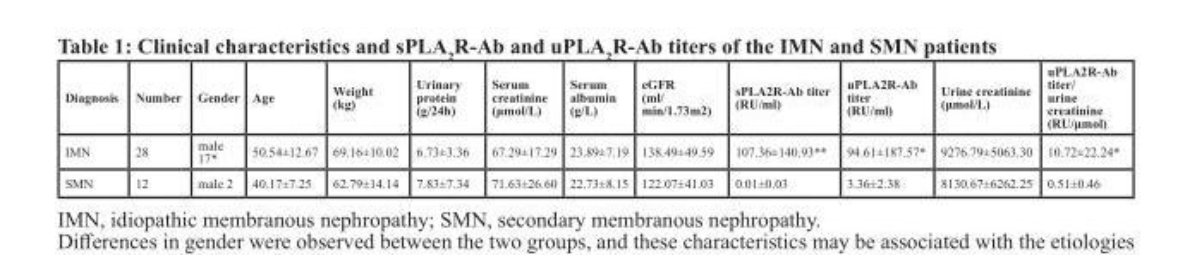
<table><thead><tr><td>Diagnosis</td><td>Number</td><td>Gender</td><td>Age</td><td>Weight (kg)</td><td>Urinary protein (g/24h)</td><td>Serum creatinine (μmol/L)</td><td>Serum albumin (g/L)</td><td>eGFR (ml/ min/1.73m2)</td><td>sPLA2R-Ab titer (RU/ml)</td><td>uPLA2R-Ab titer (RU/ml)</td><td>Urine creatinine (μmol/L)</td><td>uPLA2R-Ab titer/ urine creatinine (RU/μmol)</td></tr></thead><tbody><tr><td>IMN</td><td>28</td><td>male 17*</td><td>50.54±12.67</td><td>69.16±10.02</td><td>6.73±3.36</td><td>67.29±17.29</td><td>23.89±7.19</td><td>138.49±49.59</td><td>107.36±140.93**</td><td>94.61±187.57*</td><td>9276.79±5063.30</td><td>10.72±22.24*</td></tr><tr><td>SMN</td><td>12</td><td>male 2</td><td>40.17±7.25</td><td>62.79±14.14</td><td>7.83±7.34</td><td>71.63±26.60</td><td>22.73±8.15</td><td>122.07±41.03</td><td>0.01±0.03</td><td>3.36±2.38</td><td>8130.67±6262.25</td><td>0.51±0.46</td></tr></tbody></table>